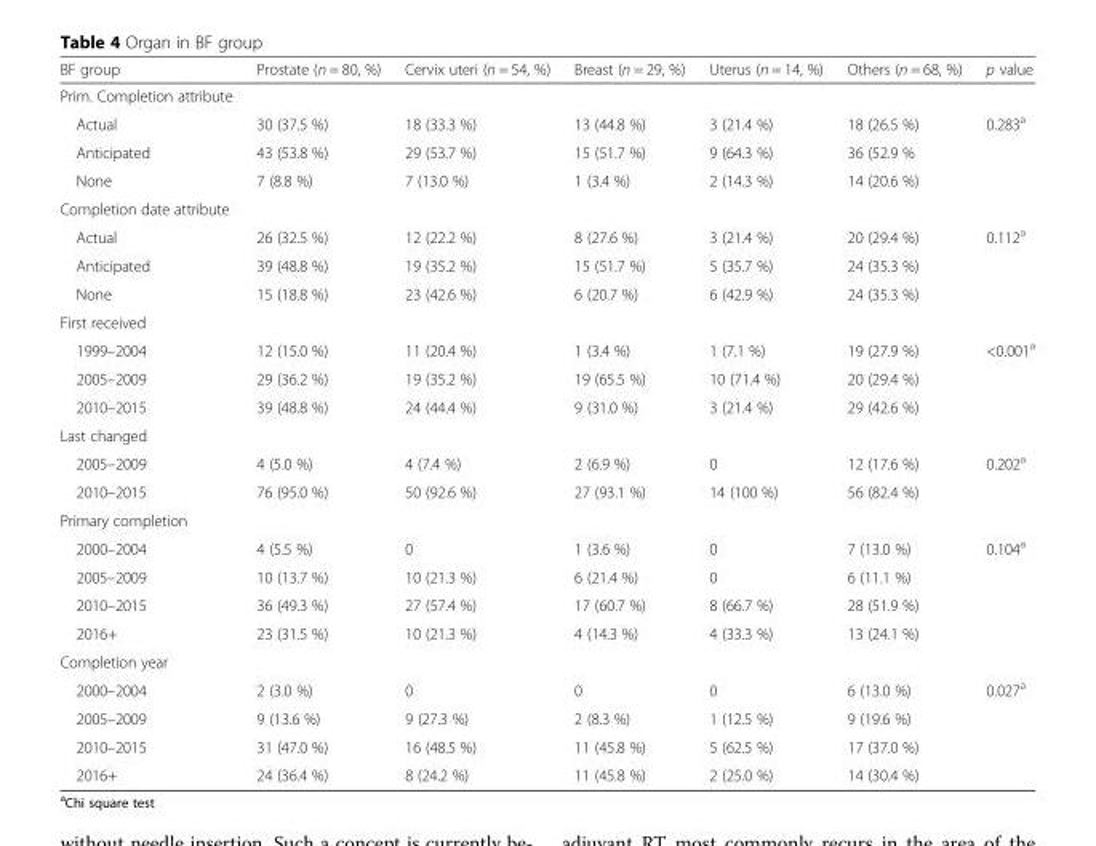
<table><thead><tr><td>BF group</td><td>Prostate (n = 80, %)</td><td>Cervix uteri (n = 54, %)</td><td>Breast (n = 29, %)</td><td>Uterus (n = 14, %)</td><td>Others (n = 68, %)</td><td>p value</td></tr></thead><tbody><tr><td colspan="7">Prim. Completion attribute</td></tr><tr><td>Actual</td><td>30 (37.5 %)</td><td>18 (33.3 %)</td><td>13 (44.8 %)</td><td>3 (21.4 %)</td><td>18 (26.5 %)</td><td rowspan="3">0.283<sup>a</sup></td></tr><tr><td>Anticipated</td><td>43 (53.8 %)</td><td>29 (53.7 %)</td><td>15 (51.7 %)</td><td>9 (64.3 %)</td><td>36 (52.9 %</td></tr><tr><td>None</td><td>7 (8.8 %)</td><td>7 (13.0 %)</td><td>1 (3.4 %)</td><td>2 (14.3 %)</td><td>14 (20.6 %)</td></tr><tr><td colspan="7">Completion date attribute</td></tr><tr><td>Actual</td><td>26 (32.5 %)</td><td>12 (22.2 %)</td><td>8 (27.6 %)</td><td>3 (21.4 %)</td><td>20 (29.4 %)</td><td rowspan="3">0.112<sup>a</sup></td></tr><tr><td>Anticipated</td><td>39 (48.8 %)</td><td>19 (35.2 %)</td><td>15 (51.7 %)</td><td>5 (35.7 %)</td><td>24 (35.3 %)</td></tr><tr><td>None</td><td>15 (18.8 %)</td><td>23 (42.6 %)</td><td>6 (20.7 %)</td><td>6 (42.9 %)</td><td>24 (35.3 %)</td></tr><tr><td colspan="7">First received</td></tr><tr><td>1999–2004</td><td>12 (15.0 %)</td><td>11 (20.4 %)</td><td>1 (3.4 %)</td><td>1 (7.1 %)</td><td>19 (27.9 %)</td><td rowspan="3">&lt;0.001<sup>a</sup></td></tr><tr><td>2005–2009</td><td>29 (36.2 %)</td><td>19 (35.2 %)</td><td>19 (65.5 %)</td><td>10 (71.4 %)</td><td>20 (29.4 %)</td></tr><tr><td>2010–2015</td><td>39 (48.8 %)</td><td>24 (44.4 %)</td><td>9 (31.0 %)</td><td>3 (21.4 %)</td><td>29 (42.6 %)</td></tr><tr><td colspan="7">Last changed</td></tr><tr><td>2005–2009</td><td>4 (5.0 %)</td><td>4 (7.4 %)</td><td>2 (6.9 %)</td><td>0</td><td>12 (17.6 %)</td><td rowspan="2">0.202<sup>a</sup></td></tr><tr><td>2010–2015</td><td>76 (95.0 %)</td><td>50 (92.6 %)</td><td>27 (93.1 %)</td><td>14 (100 %)</td><td>56 (82.4 %)</td></tr><tr><td colspan="7">Primary completion</td></tr><tr><td>2000–2004</td><td>4 (5.5 %)</td><td>0</td><td>1 (3.6 %)</td><td>0</td><td>7 (13.0 %)</td><td rowspan="4">0.104<sup>a</sup></td></tr><tr><td>2005–2009</td><td>10 (13.7 %)</td><td>10 (21.3 %)</td><td>6 (21.4 %)</td><td>0</td><td>6 (11.1 %)</td></tr><tr><td>2010–2015</td><td>36 (49.3 %)</td><td>27 (57.4 %)</td><td>17 (60.7 %)</td><td>8 (66.7 %)</td><td>28 (51.9 %)</td></tr><tr><td>2016+</td><td>23 (31.5 %)</td><td>10 (21.3 %)</td><td>4 (14.3 %)</td><td>4 (33.3 %)</td><td>13 (24.1 %)</td></tr><tr><td colspan="7">Completion year</td></tr><tr><td>2000–2004</td><td>2 (3.0 %)</td><td>0</td><td>0</td><td>0</td><td>6 (13.0 %)</td><td rowspan="4">0.027<sup>a</sup></td></tr><tr><td>2005–2009</td><td>9 (13.6 %)</td><td>9 (27.3 %)</td><td>2 (8.3 %)</td><td>1 (12.5 %)</td><td>9 (19.6 %)</td></tr><tr><td>2010–2015</td><td>31 (47.0 %)</td><td>16 (48.5 %)</td><td>11 (45.8 %)</td><td>5 (62.5 %)</td><td>17 (37.0 %)</td></tr><tr><td>2016+</td><td>24 (36.4 %)</td><td>8 (24.2 %)</td><td>11 (45.8 %)</td><td>2 (25.0 %)</td><td>14 (30.4 %)</td></tr></tbody></table>